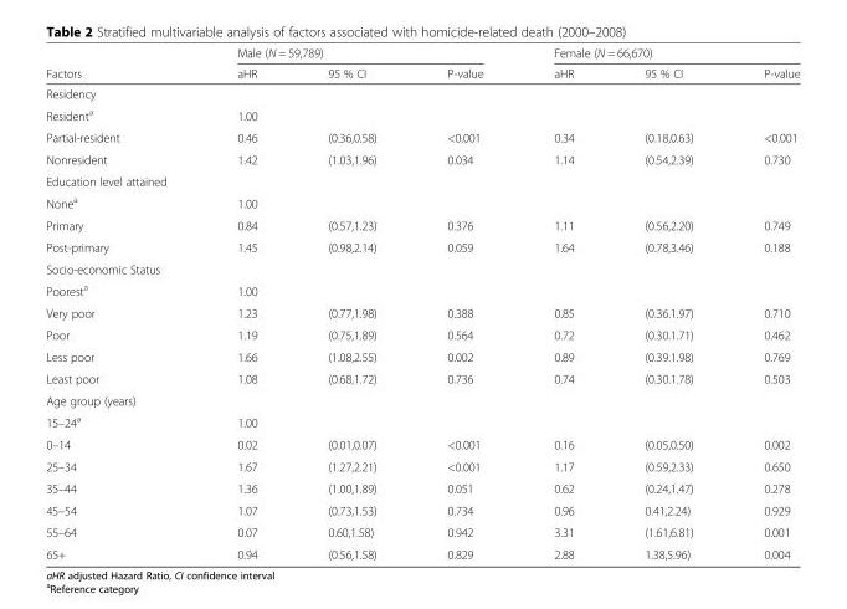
<table><thead><tr><td rowspan="2">Factors</td><td colspan="3">Male (N = 59,789)</td><td colspan="3">Female (N = 66,670)</td></tr><tr><td>aHR</td><td>95 % CI</td><td>P-value</td><td>aHR</td><td>95 % CI</td><td>P-value</td></tr></thead><tbody><tr><td colspan="7">Residency</td></tr><tr><td>Resident<sup>a</sup></td><td>1.00</td><td></td><td></td><td></td><td></td><td></td></tr><tr><td>Partial-resident</td><td>0.46</td><td>(0.36,0.58)</td><td>&lt;0.001</td><td>0.34</td><td>(0.18,0.63)</td><td>&lt;0.001</td></tr><tr><td>Nonresident</td><td>1.42</td><td>(1.03,1.96)</td><td>0.034</td><td>1.14</td><td>(0.54,2.39)</td><td>0.730</td></tr><tr><td colspan="7">Education level attained</td></tr><tr><td>None<sup>a</sup></td><td>1.00</td><td></td><td></td><td></td><td></td><td></td></tr><tr><td>Primary</td><td>0.84</td><td>(0.57,1.23)</td><td>0.376</td><td>1.11</td><td>(0.56,2.20)</td><td>0.749</td></tr><tr><td>Post-primary</td><td>1.45</td><td>(0.98,2.14)</td><td>0.059</td><td>1.64</td><td>(0.78,3.46)</td><td>0.188</td></tr><tr><td colspan="7">Socio-economic Status</td></tr><tr><td>Poorest<sup>a</sup></td><td>1.00</td><td></td><td></td><td></td><td></td><td></td></tr><tr><td>Very poor</td><td>1.23</td><td>(0.77,1.98)</td><td>0.388</td><td>0.85</td><td>(0.36.1.97)</td><td>0.710</td></tr><tr><td>Poor</td><td>1.19</td><td>(0.75,1.89)</td><td>0.564</td><td>0.72</td><td>(0.30.1.71)</td><td>0.462</td></tr><tr><td>Less poor</td><td>1.66</td><td>(1.08,2.55)</td><td>0.002</td><td>0.89</td><td>(0.39.1.98)</td><td>0.769</td></tr><tr><td>Least poor</td><td>1.08</td><td>(0.68,1.72)</td><td>0.736</td><td>0.74</td><td>(0.30.1.78)</td><td>0.503</td></tr><tr><td colspan="7">Age group (years)</td></tr><tr><td>15–24<sup>a</sup></td><td>1.00</td><td></td><td></td><td></td><td></td><td></td></tr><tr><td>0–14</td><td>0.02</td><td>(0.01,0.07)</td><td>&lt;0.001</td><td>0.16</td><td>(0.05,0.50)</td><td>0.002</td></tr><tr><td>25–34</td><td>1.67</td><td>(1.27,2.21)</td><td>&lt;0.001</td><td>1.17</td><td>(0.59,2.33)</td><td>0.650</td></tr><tr><td>35–44</td><td>1.36</td><td>(1.00,1.89)</td><td>0.051</td><td>0.62</td><td>(0.24,1.47)</td><td>0.278</td></tr><tr><td>45–54</td><td>1.07</td><td>(0.73,1.53)</td><td>0.734</td><td>0.96</td><td>0.41,2.24)</td><td>0.929</td></tr><tr><td>55–64</td><td>0.07</td><td>0.60,1.58)</td><td>0.942</td><td>3.31</td><td>(1.61,6.81)</td><td>0.001</td></tr><tr><td>65+</td><td>0.94</td><td>(0.56,1.58)</td><td>0.829</td><td>2.88</td><td>1.38,5.96)</td><td>0.004</td></tr></tbody></table>